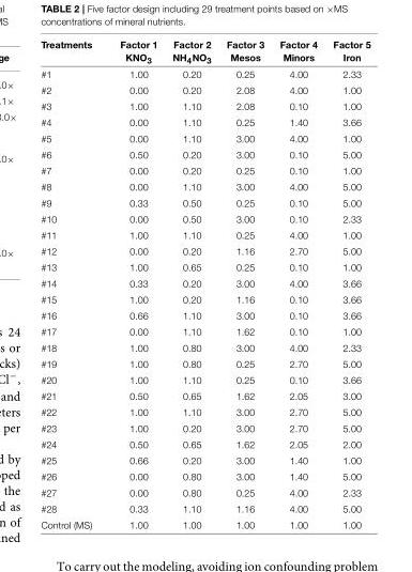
<table><thead><tr><td>Treatments</td><td>Factor 1 KNO<sub>3</sub></td><td>Factor 2 NH<sub>4</sub>NO<sub>3</sub></td><td>Factor 3 Mesos</td><td>Factor 4 Minors</td><td>Factor 5 Iron</td></tr></thead><tbody><tr><td>#1</td><td>1.00</td><td>0.20</td><td>0.25</td><td>4.00</td><td>2.33</td></tr><tr><td>#2</td><td>0.00</td><td>0.20</td><td>2.08</td><td>4.00</td><td>1.00</td></tr><tr><td>#3</td><td>1.00</td><td>1.10</td><td>2.08</td><td>0.10</td><td>1.00</td></tr><tr><td>#4</td><td>0.00</td><td>1.10</td><td>0.25</td><td>1.40</td><td>3.66</td></tr><tr><td>#5</td><td>0.00</td><td>1.10</td><td>3.00</td><td>4.00</td><td>1.00</td></tr><tr><td>#6</td><td>0.50</td><td>0.20</td><td>3.00</td><td>0.10</td><td>5.00</td></tr><tr><td>#7</td><td>0.00</td><td>0.20</td><td>0.25</td><td>0.10</td><td>1.00</td></tr><tr><td>#8</td><td>0.00</td><td>1.10</td><td>3.00</td><td>4.00</td><td>5.00</td></tr><tr><td>#9</td><td>0.33</td><td>0.50</td><td>0.25</td><td>0.10</td><td>5.00</td></tr><tr><td>#10</td><td>0.00</td><td>0.50</td><td>3.00</td><td>0.10</td><td>2.33</td></tr><tr><td>#11</td><td>1.00</td><td>1.10</td><td>0.25</td><td>4.00</td><td>1.00</td></tr><tr><td>#12</td><td>0.00</td><td>0.20</td><td>1.16</td><td>2.70</td><td>5.00</td></tr><tr><td>#13</td><td>1.00</td><td>0.65</td><td>0.25</td><td>0.10</td><td>1.00</td></tr><tr><td>#14</td><td>0.33</td><td>0.20</td><td>3.00</td><td>4.00</td><td>3.66</td></tr><tr><td>#15</td><td>1.00</td><td>0.20</td><td>1.16</td><td>0.10</td><td>3.66</td></tr><tr><td>#16</td><td>0.66</td><td>1.10</td><td>3.00</td><td>0.10</td><td>3.66</td></tr><tr><td>#17</td><td>0.00</td><td>1.10</td><td>1.62</td><td>0.10</td><td>1.00</td></tr><tr><td>#18</td><td>1.00</td><td>0.80</td><td>3.00</td><td>4.00</td><td>2.33</td></tr><tr><td>#19</td><td>1.00</td><td>0.80</td><td>0.25</td><td>2.70</td><td>5.00</td></tr><tr><td>#20</td><td>1.00</td><td>1.10</td><td>0.25</td><td>0.10</td><td>3.66</td></tr><tr><td>#21</td><td>0.50</td><td>0.65</td><td>1.62</td><td>2.05</td><td>3.00</td></tr><tr><td>#22</td><td>1.00</td><td>1.10</td><td>3.00</td><td>2.70</td><td>5.00</td></tr><tr><td>#23</td><td>1.00</td><td>0.20</td><td>3.00</td><td>2.70</td><td>5.00</td></tr><tr><td>#24</td><td>0.50</td><td>0.65</td><td>1.62</td><td>2.05</td><td>2.00</td></tr><tr><td>#25</td><td>0.66</td><td>0.20</td><td>3.00</td><td>1.40</td><td>1.00</td></tr><tr><td>#26</td><td>0.00</td><td>0.80</td><td>3.00</td><td>1.40</td><td>5.00</td></tr><tr><td>#27</td><td>0.00</td><td>0.80</td><td>0.25</td><td>4.00</td><td>2.33</td></tr><tr><td>#28</td><td>0.33</td><td>1.10</td><td>1.16</td><td>4.00</td><td>5.00</td></tr><tr><td>Control (MS)</td><td>1.00</td><td>1.00</td><td>1.00</td><td>1.00</td><td>1.00</td></tr></tbody></table>